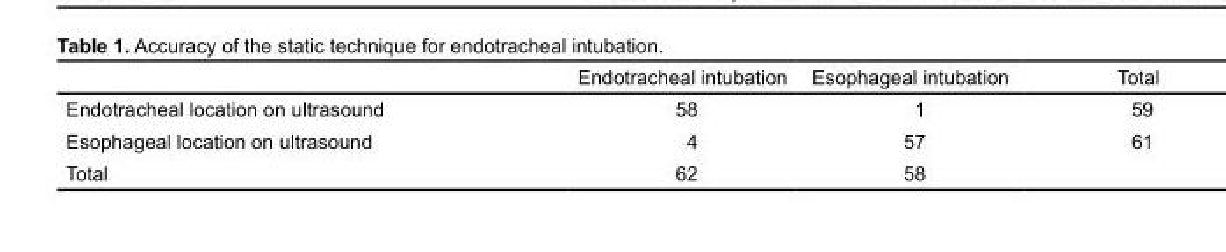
<table><thead><tr><td></td><td>Endotracheal intubation</td><td>Esophageal intubation</td><td>Total</td></tr></thead><tbody><tr><td>Endotracheal location on ultrasound</td><td>58</td><td>1</td><td>59</td></tr><tr><td>Esophageal location on ultrasound</td><td>4</td><td>57</td><td>61</td></tr><tr><td>Total</td><td>62</td><td>58</td><td></td></tr></tbody></table>